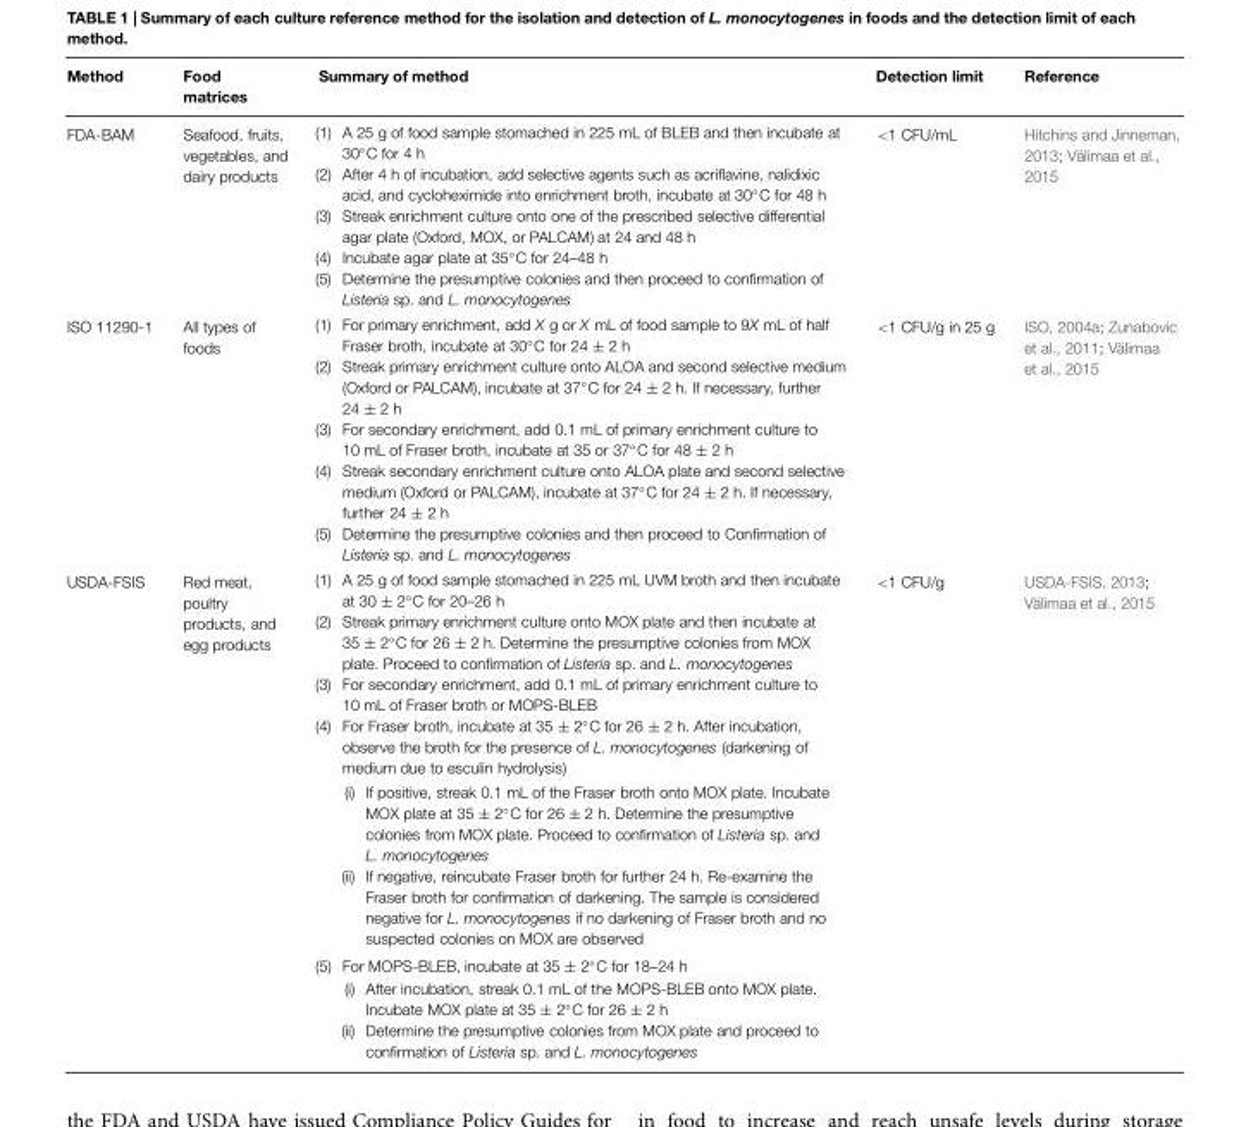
<table><thead><tr><td>Method</td><td>Food matrices</td><td>Summary of method</td><td>Detection limit</td><td>Reference</td></tr></thead><tbody><tr><td>FDA-BAM</td><td>Seafood, fruits, vegetables, and dairy products</td><td>(1) A 25 g of food sample stomached in 225 mL of BLEB and then incubate at 30◦C for 4 h (2) After 4 h of incubation, add selective agents such as acriflavine, nalidixic acid, and cycloheximide into enrichment broth, incubate at 30◦C for 48 h (3) Streak enrichment culture onto one of the prescribed selective differential agar plate (Oxford, MOX, or PALCAM) at 24 and 48 h (4) Incubate agar plate at 35◦C for 24–48 h (5) Determine the presumptive colonies and then proceed to confirmation of Listeria sp. and L. monocytogenes</td><td>&lt;1 CFU/mL</td><td>Hitchins and Jinneman, 2013; Välimaa et al., 2015</td></tr><tr><td>ISO 11290-1</td><td>All types of foods</td><td>(1) For primary enrichment, add X g or X mL of food sample to 9X mL of half Fraser broth, incubate at 30◦C for 24 ± 2 h (2) Streak primary enrichment culture onto ALOA and second selective medium (Oxford or PALCAM), incubate at 37◦C for 24 ± 2 h. If necessary, further 24 ± 2 h (3) For secondary enrichment, add 0.1 mL of primary enrichment culture to 10 mL of Fraser broth, incubate at 35 or 37◦C for 48 ± 2 h (4) Streak secondary enrichment culture onto ALOA plate and second selective medium (Oxford or PALCAM), incubate at 37◦C for 24 ± 2 h. If necessary, further 24 ± 2 h (5) Determine the presumptive colonies and then proceed to Confirmation of Listeria sp. and L. monocytogenes</td><td>&lt;1 CFU/g in 25 g</td><td>ISO, 2004a; Zunabovic et al., 2011; Välimaa et al., 2015</td></tr><tr><td>USDA-FSIS</td><td>Red meat, poultry products, and egg products</td><td>(1) A 25 g of food sample stomached in 225 mL UVM broth and then incubate at 30 ± 2◦C for 20–26 h (2) Streak primary enrichment culture onto MOX plate and then incubate at 35 ± 2◦C for 26 ± 2 h. Determine the presumptive colonies from MOX plate. Proceed to confirmation of Listeria sp. and L. monocytogenes (3) For secondary enrichment, add 0.1 mL of primary enrichment culture to 10 mL of Fraser broth or MOPS-BLEB (4) For Fraser broth, incubate at 35 ± 2◦C for 26 ± 2 h. After incubation, observe the broth for the presence of L. monocytogenes (darkening of medium due to esculin hydrolysis) (i) If positive, streak 0.1 mL of the Fraser broth onto MOX plate. Incubate MOX plate at 35 ± 2◦C for 26 ± 2 h. Determine the presumptive colonies from MOX plate. Proceed to confirmation of Listeria sp. and L. monocytogenes (ii) If negative, reincubate Fraser broth for further 24 h. Re-examine the Fraser broth for confirmation of darkening. The sample is considered negative for L. monocytogenes if no darkening of Fraser broth and no suspected colonies on MOX are observed (5) For MOPS-BLEB, incubate at 35 ± 2◦C for 18–24 h (i) After incubation, streak 0.1 mL of the MOPS-BLEB onto MOX plate. Incubate MOX plate at 35 ± 2◦C for 26 ± 2 h (ii) Determine the presumptive colonies from MOX plate and proceed to confirmation of Listeria sp. and L. monocytogenes</td><td>&lt;1 CFU/g</td><td>USDA-FSIS, 2013; Välimaa et al., 2015</td></tr></tbody></table>